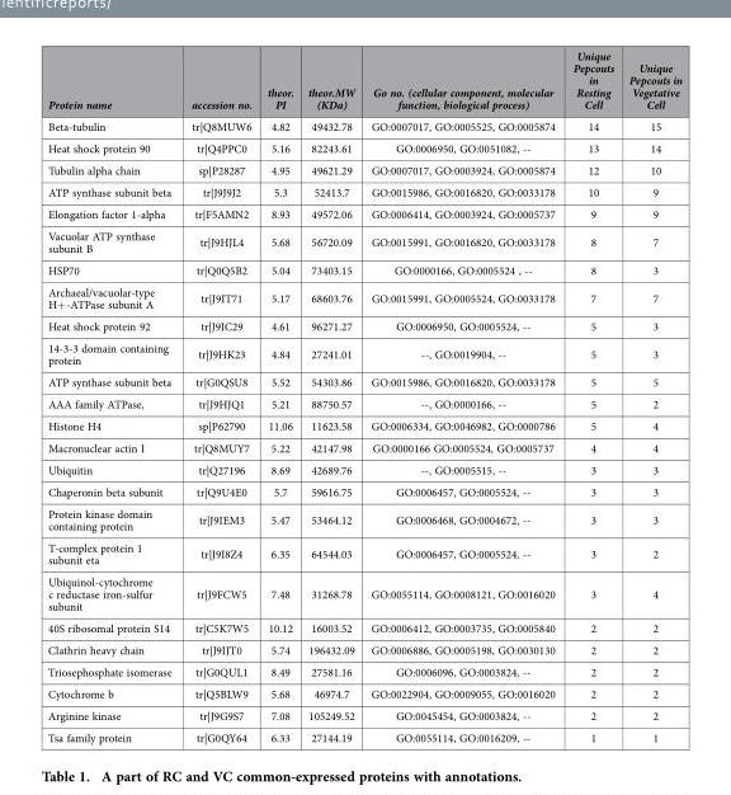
<table><thead><tr><td>Protein name</td><td>accession no.</td><td>theor. PI</td><td>theor.MW (KDa)</td><td>Go no. (cellular component, molecular function, biological process)</td><td>Unique Pepcouts in Resting Cell</td><td>Unique Pepcouts in Vegetative Cell</td></tr></thead><tbody><tr><td>Beta-tubulin</td><td>tr|Q8MUW6</td><td>4.82</td><td>49432.78</td><td>GO:0007017, GO:0005525, GO:0005874</td><td>14</td><td>15</td></tr><tr><td>Heat shock protein 90</td><td>tr|Q4PPC0</td><td>5.16</td><td>82243.61</td><td>GO:0006950, GO:0051082, --</td><td>13</td><td>14</td></tr><tr><td>Tubulin alpha chain</td><td>sp|P28287</td><td>4.95</td><td>49621.29</td><td>GO:0007017, GO:0003924, GO:0005874</td><td>12</td><td>10</td></tr><tr><td>ATP synthase subunit beta</td><td>tr|J9J9J2</td><td>5.3</td><td>52413.7</td><td>GO:0015986, GO:0016820, GO:0033178</td><td>10</td><td>9</td></tr><tr><td>Elongation factor 1-alpha</td><td>tr|F5AMN2</td><td>8.93</td><td>49572.06</td><td>GO:0006414, GO:0003924, GO:0005737</td><td>9</td><td>9</td></tr><tr><td>Vacuolar ATP synthase subunit B</td><td>tr|J9HJL4</td><td>5.68</td><td>56720.09</td><td>GO:0015991, GO:0016820, GO:0033178</td><td>8</td><td>7</td></tr><tr><td>HSP70</td><td>tr|Q0Q5B2</td><td>5.04</td><td>73403.15</td><td>GO:0000166, GO:0005524 , --</td><td>8</td><td>3</td></tr><tr><td>Archaeal/vacuolar-type H+ -ATPase subunit A</td><td>tr|J9IT71</td><td>5.17</td><td>68603.76</td><td>GO:0015991, GO:0005524, GO:0033178</td><td>7</td><td>7</td></tr><tr><td>Heat shock protein 92</td><td>tr|J9IC29</td><td>4.61</td><td>96271.27</td><td>GO:0006950, GO:0005524, --</td><td>5</td><td>3</td></tr><tr><td>14-3-3 domain containing protein</td><td>tr|J9HK23</td><td>4.84</td><td>27241.01</td><td>--, GO:0019904, --</td><td>5</td><td>3</td></tr><tr><td>ATP synthase subunit beta</td><td>tr|G0QSU8</td><td>5.52</td><td>54303.86</td><td>GO:0015986, GO:0016820, GO:0033178</td><td>5</td><td>5</td></tr><tr><td>AAA family ATPase,</td><td>tr|J9HJQ1</td><td>5.21</td><td>88750.57</td><td>--, GO:0000166, --</td><td>5</td><td>2</td></tr><tr><td>Histone H4</td><td>sp|P62790</td><td>11.06</td><td>11623.58</td><td>GO:0006334, GO:0046982, GO:0000786</td><td>5</td><td>4</td></tr><tr><td>Macronuclear actin I</td><td>tr|Q8MUY7</td><td>5.22</td><td>42147.98</td><td>GO:0000166 GO:0005524, GO:0005737</td><td>4</td><td>4</td></tr><tr><td>Ubiquitin</td><td>tr|Q27196</td><td>8.69</td><td>42689.76</td><td>--, GO:0005515, --</td><td>3</td><td>3</td></tr><tr><td>Chaperonin beta subunit</td><td>tr|Q9U4E0</td><td>5.7</td><td>59616.75</td><td>GO:0006457, GO:0005524, --</td><td>3</td><td>3</td></tr><tr><td>Protein kinase domain containing protein</td><td>tr|J9IEM3</td><td>5.47</td><td>53464.12</td><td>GO:0006468, GO:0004672, --</td><td>3</td><td>3</td></tr><tr><td>T-complex protein 1 subunit eta</td><td>tr|J9I8Z4</td><td>6.35</td><td>64544.03</td><td>GO:0006457, GO:0005524, --</td><td>3</td><td>2</td></tr><tr><td>Ubiquinol-cytochrome c reductase iron-sulfur subunit</td><td>tr|J9FCW5</td><td>7.48</td><td>31268.78</td><td>GO:0055114, GO:0008121, GO:0016020</td><td>3</td><td>4</td></tr><tr><td>40S ribosomal protein S14</td><td>tr|C5K7W5</td><td>10.12</td><td>16003.52</td><td>GO:0006412, GO:0003735, GO:0005840</td><td>2</td><td>2</td></tr><tr><td>Clathrin heavy chain</td><td>tr|J9IJT0</td><td>5.74</td><td>196432.09</td><td>GO:0006886, GO:0005198, GO:0030130</td><td>2</td><td>2</td></tr><tr><td>Triosephosphate isomerase</td><td>tr|G0QUL1</td><td>8.49</td><td>27581.16</td><td>GO:0006096, GO:0003824, --</td><td>2</td><td>2</td></tr><tr><td>Cytochrome b</td><td>tr|Q5BLW9</td><td>5.68</td><td>46974.7</td><td>GO:0022904, GO:0009055, GO:0016020</td><td>2</td><td>2</td></tr><tr><td>Arginine kinase</td><td>tr|J9G9S7</td><td>7.08</td><td>105249.52</td><td>GO:0045454, GO:0003824, --</td><td>2</td><td>2</td></tr><tr><td>Tsa family protein</td><td>tr|G0QY64</td><td>6.33</td><td>27144.19</td><td>GO:0055114, GO:0016209, --</td><td>1</td><td>1</td></tr></tbody></table>